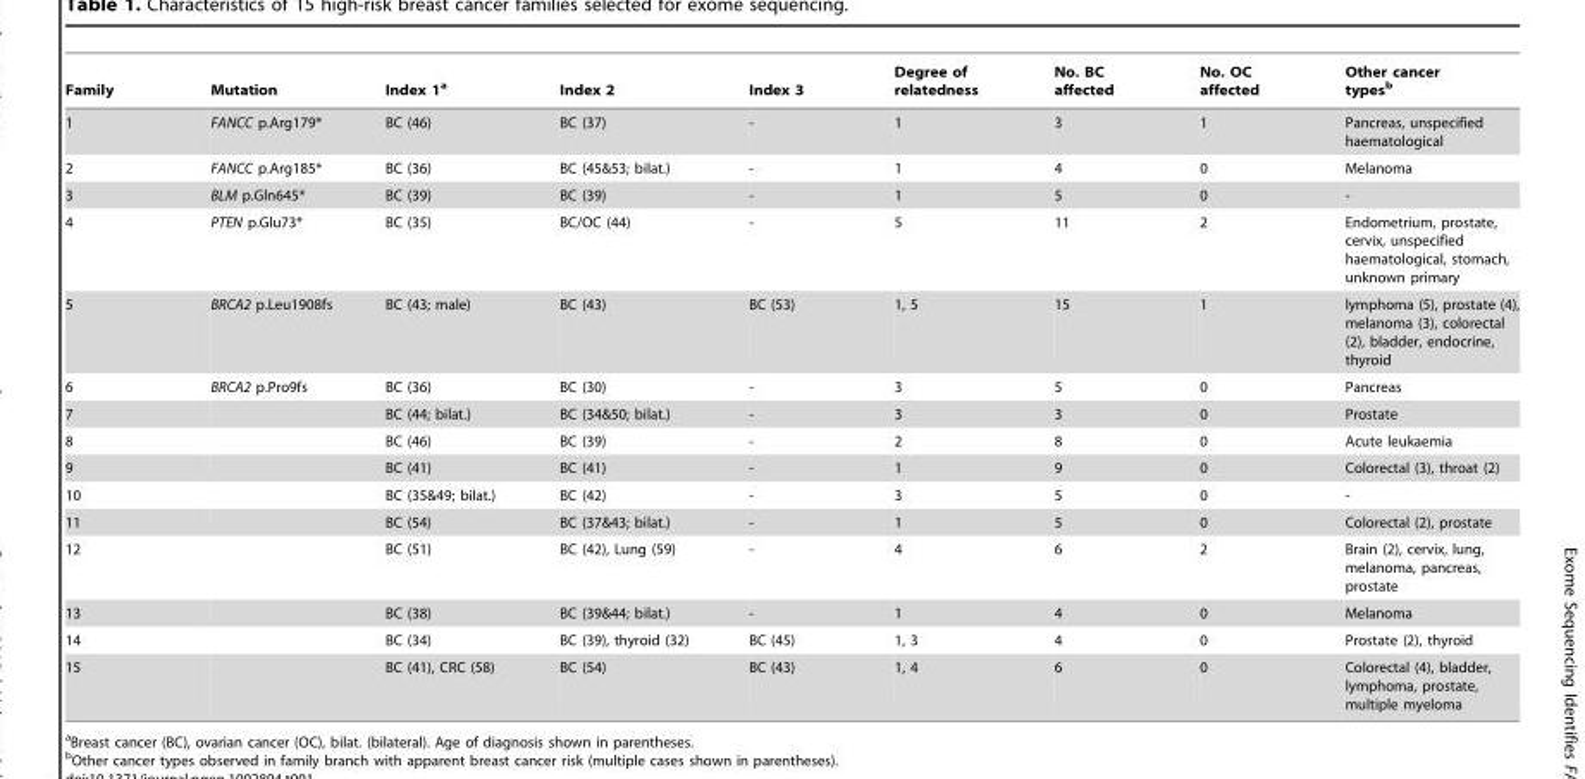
<table><thead><tr><td>Family</td><td>Mutation</td><td>Index 1<sup>a</sup></td><td>Index 2</td><td>Index 3</td><td>Degree of relatedness</td><td>No. BC affected</td><td>No. OC affected</td><td>Other cancer types<sup>b</sup></td></tr></thead><tbody><tr><td>1</td><td>FANCC p.Arg179*</td><td>BC (46)</td><td>BC (37)</td><td>-</td><td>1</td><td>3</td><td>1</td><td>Pancreas, unspecified haematological</td></tr><tr><td>2</td><td>FANCC p.Arg185*</td><td>BC (36)</td><td>BC (45&amp;53; bilat.)</td><td>-</td><td>1</td><td>4</td><td>0</td><td>Melanoma</td></tr><tr><td>3</td><td>BLM p.Gln645*</td><td>BC (39)</td><td>BC (39)</td><td>-</td><td>1</td><td>5</td><td>0</td><td>-</td></tr><tr><td>4</td><td>PTEN p.Glu73*</td><td>BC (35)</td><td>BC/OC (44)</td><td>-</td><td>5</td><td>11</td><td>2</td><td>Endometrium, prostate, cervix, unspecified haematological, stomach, unknown primary</td></tr><tr><td>5</td><td>BRCA2 p.Leu1908fs</td><td>BC (43; male)</td><td>BC (43)</td><td>BC (53)</td><td>1, 5</td><td>15</td><td>1</td><td>lymphoma (5), prostate (4), melanoma (3), colorectal (2), bladder, endocrine, thyroid</td></tr><tr><td>6</td><td>BRCA2 p.Pro9fs</td><td>BC (36)</td><td>BC (30)</td><td>-</td><td>3</td><td>5</td><td>0</td><td>Pancreas</td></tr><tr><td>7</td><td></td><td>BC (44; bilat.)</td><td>BC (34&amp;50; bilat.)</td><td>-</td><td>3</td><td>3</td><td>0</td><td>Prostate</td></tr><tr><td>8</td><td></td><td>BC (46)</td><td>BC (39)</td><td>-</td><td>2</td><td>8</td><td>0</td><td>Acute leukaemia</td></tr><tr><td>9</td><td></td><td>BC (41)</td><td>BC (41)</td><td>-</td><td>1</td><td>9</td><td>0</td><td>Colorectal (3), throat (2)</td></tr><tr><td>10</td><td></td><td>BC (35&amp;49; bilat.)</td><td>BC (42)</td><td>-</td><td>3</td><td>5</td><td>0</td><td>-</td></tr><tr><td>11</td><td></td><td>BC (54)</td><td>BC (37&amp;43; bilat.)</td><td>-</td><td>1</td><td>5</td><td>0</td><td>Colorectal (2), prostate</td></tr><tr><td>12</td><td></td><td>BC (51)</td><td>BC (42), Lung (59)</td><td>-</td><td>4</td><td>6</td><td>2</td><td>Brain (2), cervix, lung, melanoma, pancreas, prostate</td></tr><tr><td>13</td><td></td><td>BC (38)</td><td>BC (39&amp;44; bilat.)</td><td>-</td><td>1</td><td>4</td><td>0</td><td>Melanoma</td></tr><tr><td>14</td><td></td><td>BC (34)</td><td>BC (39), thyroid (32)</td><td>BC (45)</td><td>1, 3</td><td>4</td><td>0</td><td>Prostate (2), thyroid</td></tr><tr><td>15</td><td></td><td>BC (41), CRC (58)</td><td>BC (54)</td><td>BC (43)</td><td>1, 4</td><td>6</td><td>0</td><td>Colorectal (4), bladder, lymphoma, prostate, multiple myeloma</td></tr></tbody></table>